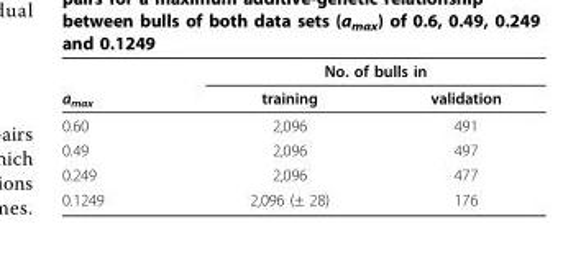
<table><thead><tr><td rowspan="2">a<sub>max</sub></td><td colspan="2">No. of bulls in</td></tr><tr><td>training</td><td>validation</td></tr></thead><tbody><tr><td>0.60</td><td>2,096</td><td>491</td></tr><tr><td>0.49</td><td>2,096</td><td>497</td></tr><tr><td>0.249</td><td>2,096</td><td>477</td></tr><tr><td>0.1249</td><td>2,096 (± 28)</td><td>176</td></tr></tbody></table>